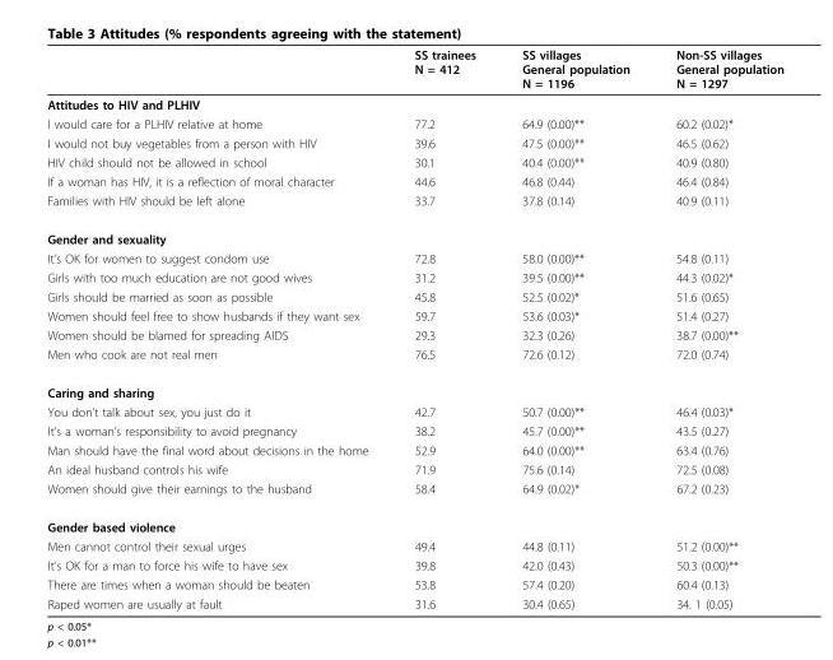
<table><thead><tr><td></td><td>SS trainees N = 412</td><td>SS villages General population N = 1196</td><td>Non-SS villages General population N = 1297</td></tr></thead><tbody><tr><td colspan="4">Attitudes to HIV and PLHIV</td></tr><tr><td>I would care for a PLHIV relative at home</td><td>77.2</td><td>64.9 (0.00)**</td><td>60.2 (0.02)*</td></tr><tr><td>I would not buy vegetables from a person with HIV</td><td>39.6</td><td>47.5 (0.00)**</td><td>46.5 (0.62)</td></tr><tr><td>HIV child should not be allowed in school</td><td>30.1</td><td>40.4 (0.00)**</td><td>40.9 (0.80)</td></tr><tr><td>If a woman has HIV, it is a reflection of moral character</td><td>44.6</td><td>46.8 (0.44)</td><td>46.4 (0.84)</td></tr><tr><td>Families with HIV should be left alone</td><td>33.7</td><td>37.8 (0.14)</td><td>40.9 (0.11)</td></tr><tr><td colspan="4">Gender and sexuality</td></tr><tr><td>It’s OK for women to suggest condom use</td><td>72.8</td><td>58.0 (0.00)**</td><td>54.8 (0.11)</td></tr><tr><td>Girls with too much education are not good wives</td><td>31.2</td><td>39.5 (0.00)**</td><td>44.3 (0.02)*</td></tr><tr><td>Girls should be married as soon as possible</td><td>45.8</td><td>52.5 (0.02)*</td><td>51.6 (0.65)</td></tr><tr><td>Women should feel free to show husbands if they want sex</td><td>59.7</td><td>53.6 (0.03)*</td><td>51.4 (0.27)</td></tr><tr><td>Women should be blamed for spreading AIDS</td><td>29.3</td><td>32.3 (0.26)</td><td>38.7 (0.00)**</td></tr><tr><td>Men who cook are not real men</td><td>76.5</td><td>72.6 (0.12)</td><td>72.0 (0.74)</td></tr><tr><td colspan="4">Caring and sharing</td></tr><tr><td>You don’t talk about sex, you just do it</td><td>42.7</td><td>50.7 (0.00)**</td><td>46.4 (0.03)*</td></tr><tr><td>It’s a woman’s responsibility to avoid pregnancy</td><td>38.2</td><td>45.7 (0.00)**</td><td>43.5 (0.27)</td></tr><tr><td>Man should have the final word about decisions in the home</td><td>52.9</td><td>64.0 (0.00)**</td><td>63.4 (0.76)</td></tr><tr><td>An ideal husband controls his wife</td><td>71.9</td><td>75.6 (0.14)</td><td>72.5 (0.08)</td></tr><tr><td>Women should give their earnings to the husband</td><td>58.4</td><td>64.9 (0.02)*</td><td>67.2 (0.23)</td></tr><tr><td colspan="4">Gender based violence</td></tr><tr><td>Men cannot control their sexual urges</td><td>49.4</td><td>44.8 (0.11)</td><td>51.2 (0.00)**</td></tr><tr><td>It’s OK for a man to force his wife to have sex</td><td>39.8</td><td>42.0 (0.43)</td><td>50.3 (0.00)**</td></tr><tr><td>There are times when a woman should be beaten</td><td>53.8</td><td>57.4 (0.20)</td><td>60.4 (0.13)</td></tr><tr><td>Raped women are usually at fault</td><td>31.6</td><td>30.4 (0.65)</td><td>34. 1 (0.05)</td></tr></tbody></table>